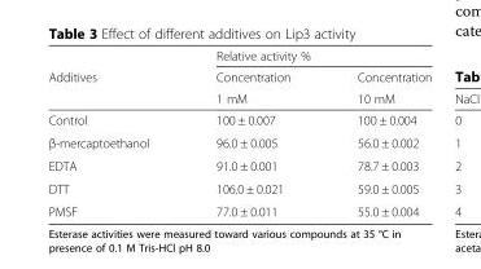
<table><thead><tr><td rowspan="3">Additives</td><td colspan="2">Relative activity %</td></tr><tr><td rowspan="2">Concentration 1 mM</td><td rowspan="2">Concentration 10 mM</td></tr><tr></tr></thead><tbody><tr><td>Control</td><td>100 ± 0.007</td><td>100 ± 0.004</td></tr><tr><td>β-mercaptoethanol</td><td>96.0 ± 0.005</td><td>56.0 ± 0.002</td></tr><tr><td>EDTA</td><td>91.0 ± 0.001</td><td>78.7 ± 0.003</td></tr><tr><td>DTT</td><td>106.0 ± 0.021</td><td>59.0 ± 0.005</td></tr><tr><td>PMSF</td><td>77.0 ± 0.011</td><td>55.0 ± 0.004</td></tr></tbody></table>